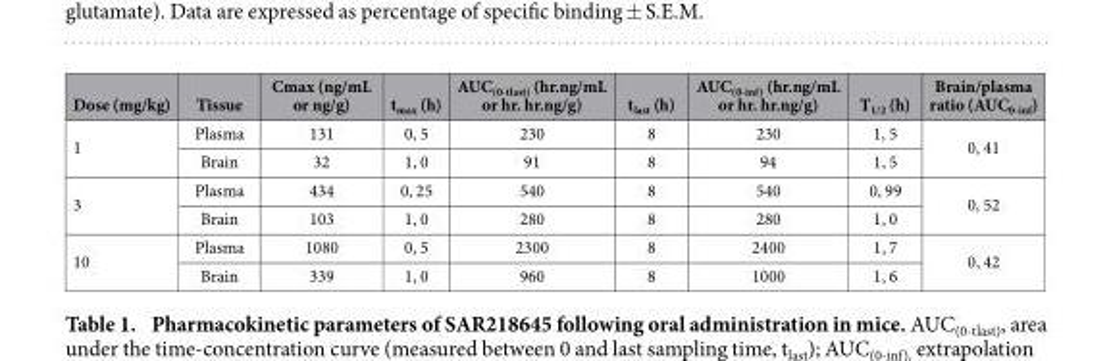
<table><thead><tr><td>Dose (mg/kg)</td><td>Tissue</td><td>Cmax (ng/mL or ng/g)</td><td>t<sub>max</sub> (h)</td><td>AUC<sub>(0-tlast)</sub> (hr.ng/mL or hr. hr.ng/g)</td><td>t<sub>last</sub> (h)</td><td>AUC<sub>(0-inf)</sub> (hr.ng/mL or hr. hr.ng/g)</td><td>T<sub>1/2</sub> (h)</td><td>Brain/plasma ratio (AUC<sub>0-inf</sub>)</td></tr></thead><tbody><tr><td rowspan="2">1</td><td>Plasma</td><td>131</td><td>0, 5</td><td>230</td><td>8</td><td>230</td><td>1, 5</td><td rowspan="2">0, 41</td></tr><tr><td>Brain</td><td>32</td><td>1, 0</td><td>91</td><td>8</td><td>94</td><td>1, 5</td></tr><tr><td rowspan="2">3</td><td>Plasma</td><td>434</td><td>0, 25</td><td>540</td><td>8</td><td>540</td><td>0, 99</td><td rowspan="2">0, 52</td></tr><tr><td>Brain</td><td>103</td><td>1, 0</td><td>280</td><td>8</td><td>280</td><td>1, 0</td></tr><tr><td rowspan="2">10</td><td>Plasma</td><td>1080</td><td>0, 5</td><td>2300</td><td>8</td><td>2400</td><td>1, 7</td><td rowspan="2">0, 42</td></tr><tr><td>Brain</td><td>339</td><td>1, 0</td><td>960</td><td>8</td><td>1000</td><td>1, 6</td></tr></tbody></table>